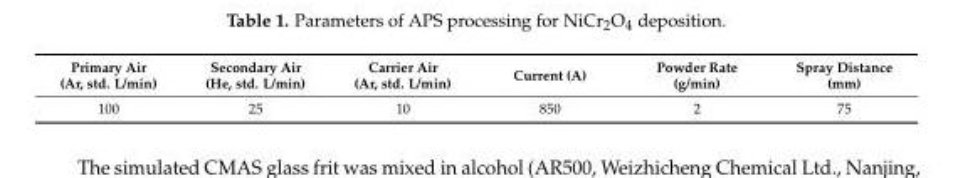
<table><thead><tr><td>Primary Air (Ar, std. L/min)</td><td>Secondary Air (He, std. L/min)</td><td>Carrier Air (Ar, std. L/min)</td><td>Current (A)</td><td>Powder Rate (g/min)</td><td>Spray Distance (mm)</td></tr></thead><tbody><tr><td>100</td><td>25</td><td>10</td><td>850</td><td>2</td><td>75</td></tr></tbody></table>